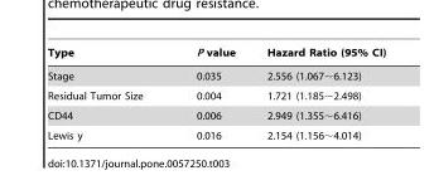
<table><thead><tr><td>Type</td><td>P value</td><td>Hazard Ratio (95% CI)</td></tr></thead><tbody><tr><td>Stage</td><td>0.035</td><td>2.556 (1.067∼6.123)</td></tr><tr><td>Residual Tumor Size</td><td>0.004</td><td>1.721 (1.185∼2.498)</td></tr><tr><td>CD44</td><td>0.006</td><td>2.949 (1.355∼6.416)</td></tr><tr><td>Lewis y</td><td>0.016</td><td>2.154 (1.156∼4.014)</td></tr></tbody></table>